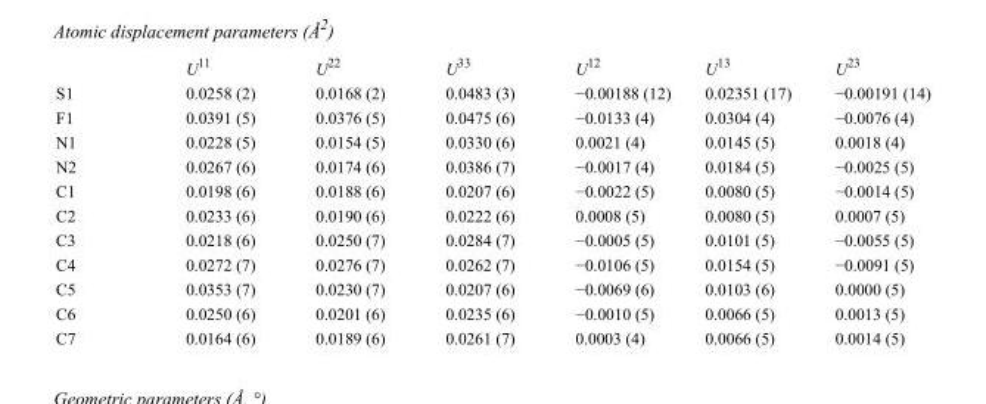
<table><thead><tr><td></td><td>U<sup>11</sup></td><td>U<sup>22</sup></td><td>U<sup>33</sup></td><td>U<sup>12</sup></td><td>U<sup>13</sup></td><td>U<sup>23</sup></td></tr></thead><tbody><tr><td>S1</td><td>0.0258 (2)</td><td>0.0168 (2)</td><td>0.0483 (3)</td><td>−0.00188 (12)</td><td>0.02351 (17)</td><td>−0.00191 (14)</td></tr><tr><td>F1</td><td>0.0391 (5)</td><td>0.0376 (5)</td><td>0.0475 (6)</td><td>−0.0133 (4)</td><td>0.0304 (4)</td><td>−0.0076 (4)</td></tr><tr><td>N1</td><td>0.0228 (5)</td><td>0.0154 (5)</td><td>0.0330 (6)</td><td>0.0021 (4)</td><td>0.0145 (5)</td><td>0.0018 (4)</td></tr><tr><td>N2</td><td>0.0267 (6)</td><td>0.0174 (6)</td><td>0.0386 (7)</td><td>−0.0017 (4)</td><td>0.0184 (5)</td><td>−0.0025 (5)</td></tr><tr><td>C1</td><td>0.0198 (6)</td><td>0.0188 (6)</td><td>0.0207 (6)</td><td>−0.0022 (5)</td><td>0.0080 (5)</td><td>−0.0014 (5)</td></tr><tr><td>C2</td><td>0.0233 (6)</td><td>0.0190 (6)</td><td>0.0222 (6)</td><td>0.0008 (5)</td><td>0.0080 (5)</td><td>0.0007 (5)</td></tr><tr><td>C3</td><td>0.0218 (6)</td><td>0.0250 (7)</td><td>0.0284 (7)</td><td>−0.0005 (5)</td><td>0.0101 (5)</td><td>−0.0055 (5)</td></tr><tr><td>C4</td><td>0.0272 (7)</td><td>0.0276 (7)</td><td>0.0262 (7)</td><td>−0.0106 (5)</td><td>0.0154 (5)</td><td>−0.0091 (5)</td></tr><tr><td>C5</td><td>0.0353 (7)</td><td>0.0230 (7)</td><td>0.0207 (6)</td><td>−0.0069 (6)</td><td>0.0103 (6)</td><td>0.0000 (5)</td></tr><tr><td>C6</td><td>0.0250 (6)</td><td>0.0201 (6)</td><td>0.0235 (6)</td><td>−0.0010 (5)</td><td>0.0066 (5)</td><td>0.0013 (5)</td></tr><tr><td>C7</td><td>0.0164 (6)</td><td>0.0189 (6)</td><td>0.0261 (7)</td><td>0.0003 (4)</td><td>0.0066 (5)</td><td>0.0014 (5)</td></tr></tbody></table>